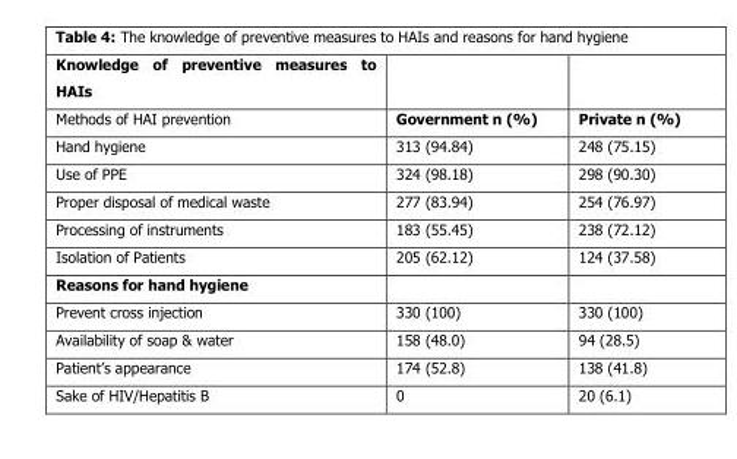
<table><thead><tr><td rowspan="2">Knowledge of preventive measures to HAIs Methods of HAI prevention</td><td rowspan="2">Government n (%)</td><td rowspan="2">Private n (%)</td></tr><tr></tr></thead><tbody><tr><td>Hand hygiene</td><td>313 (94.84)</td><td>248 (75.15)</td></tr><tr><td>Use of PPE</td><td>324 (98.18)</td><td>298 (90.30)</td></tr><tr><td>Proper disposal of medical waste</td><td>277 (83.94)</td><td>254 (76.97)</td></tr><tr><td>Processing of instruments</td><td>183 (55.45)</td><td>238 (72.12)</td></tr><tr><td>Isolation of Patients</td><td>205 (62.12)</td><td>124 (37.58)</td></tr><tr><td colspan="3">Reasons for hand hygiene</td></tr><tr><td>Prevent cross injection</td><td>330 (100)</td><td>330 (100)</td></tr><tr><td>Availability of soap &amp; water</td><td>158 (48.0)</td><td>94 (28.5)</td></tr><tr><td>Patient‘s appearance</td><td>174 (52.8)</td><td>138 (41.8)</td></tr><tr><td>Sake of HIV/Hepatitis B</td><td>0</td><td>20 (6.1)</td></tr></tbody></table>